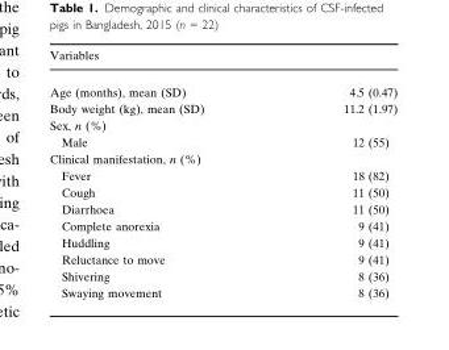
<table><thead><tr><td>Variables</td><td></td></tr></thead><tbody><tr><td>Age (months), mean (SD)</td><td>4.5 (0.47)</td></tr><tr><td>Body weight (kg), mean (SD)</td><td>11.2 (1.97)</td></tr><tr><td colspan="2">Sex, n (%)</td></tr><tr><td>Male</td><td>12 (55)</td></tr><tr><td colspan="2">Clinical manifestation, n (%)</td></tr><tr><td>Fever</td><td>18 (82)</td></tr><tr><td>Cough</td><td>11 (50)</td></tr><tr><td>Diarrhoea</td><td>11 (50)</td></tr><tr><td>Complete anorexia</td><td>9 (41)</td></tr><tr><td>Huddling</td><td>9 (41)</td></tr><tr><td>Reluctance to move</td><td>9 (41)</td></tr><tr><td>Shivering</td><td>8 (36)</td></tr><tr><td>Swaying movement</td><td>8 (36)</td></tr></tbody></table>